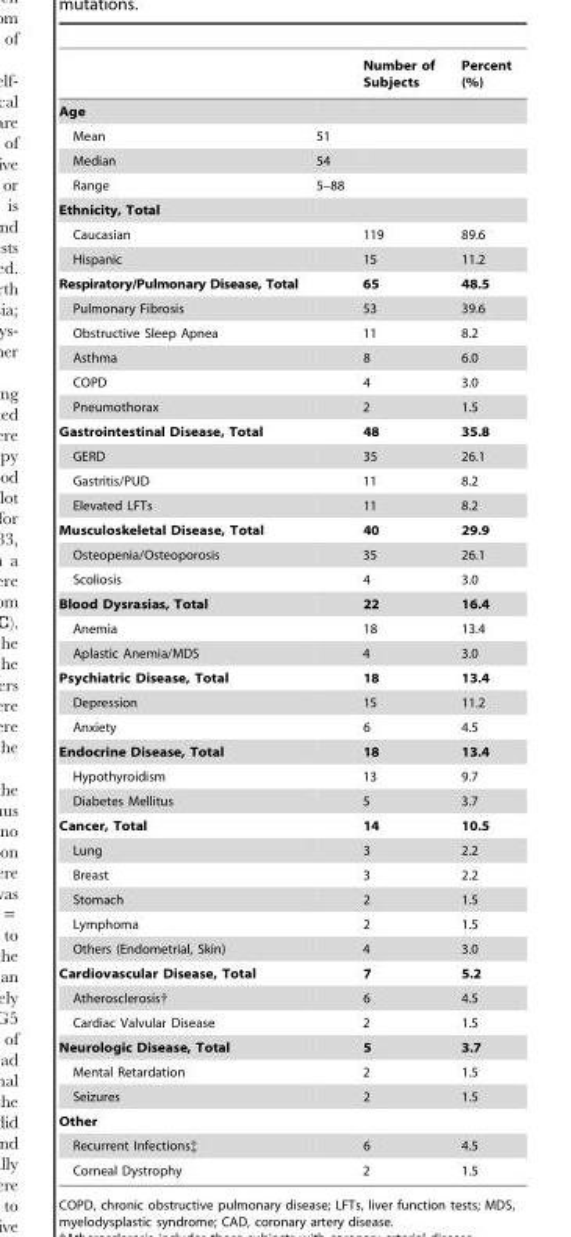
<table><thead><tr><td></td><td></td><td>Number of Subjects</td><td>Percent (%)</td></tr></thead><tbody><tr><td colspan="4">Age</td></tr><tr><td>Mean</td><td>51</td><td></td><td></td></tr><tr><td>Median</td><td>54</td><td></td><td></td></tr><tr><td>Range</td><td>5–88</td><td></td><td></td></tr><tr><td colspan="4">Ethnicity, Total</td></tr><tr><td>Caucasian</td><td></td><td>119</td><td>89.6</td></tr><tr><td>Hispanic</td><td></td><td>15</td><td>11.2</td></tr><tr><td>Respiratory/Pulmonary Disease, Total</td><td></td><td>65</td><td>48.5</td></tr><tr><td>Pulmonary Fibrosis</td><td></td><td>53</td><td>39.6</td></tr><tr><td>Obstructive Sleep Apnea</td><td></td><td>11</td><td>8.2</td></tr><tr><td>Asthma</td><td></td><td>8</td><td>6.0</td></tr><tr><td>COPD</td><td></td><td>4</td><td>3.0</td></tr><tr><td>Pneumothorax</td><td></td><td>2</td><td>1.5</td></tr><tr><td>Gastrointestinal Disease, Total</td><td></td><td>48</td><td>35.8</td></tr><tr><td>GERD</td><td></td><td>35</td><td>26.1</td></tr><tr><td>Gastritis/PUD</td><td></td><td>11</td><td>8.2</td></tr><tr><td>Elevated LFTs</td><td></td><td>11</td><td>8.2</td></tr><tr><td>Musculoskeletal Disease, Total</td><td></td><td>40</td><td>29.9</td></tr><tr><td>Osteopenia/Osteoporosis</td><td></td><td>35</td><td>26.1</td></tr><tr><td>Scoliosis</td><td></td><td>4</td><td>3.0</td></tr><tr><td>Blood Dysrasias, Total</td><td></td><td>22</td><td>16.4</td></tr><tr><td>Anemia</td><td></td><td>18</td><td>13.4</td></tr><tr><td>Aplastic Anemia/MDS</td><td></td><td>4</td><td>3.0</td></tr><tr><td>Psychiatric Disease, Total</td><td></td><td>18</td><td>13.4</td></tr><tr><td>Depression</td><td></td><td>15</td><td>11.2</td></tr><tr><td>Anxiety</td><td></td><td>6</td><td>4.5</td></tr><tr><td>Endocrine Disease, Total</td><td></td><td>18</td><td>13.4</td></tr><tr><td>Hypothyroidism</td><td></td><td>13</td><td>9.7</td></tr><tr><td>Diabetes Mellitus</td><td></td><td>5</td><td>3.7</td></tr><tr><td>Cancer, Total</td><td></td><td>14</td><td>10.5</td></tr><tr><td>Lung</td><td></td><td>3</td><td>2.2</td></tr><tr><td>Breast</td><td></td><td>3</td><td>2.2</td></tr><tr><td>Stomach</td><td></td><td>2</td><td>1.5</td></tr><tr><td>Lymphoma</td><td></td><td>2</td><td>1.5</td></tr><tr><td>Others (Endometrial, Skin)</td><td></td><td>4</td><td>3.0</td></tr><tr><td>Cardiovascular Disease, Total</td><td></td><td>7</td><td>5.2</td></tr><tr><td>Atherosclerosis†</td><td></td><td>6</td><td>4.5</td></tr><tr><td>Cardiac Valvular Disease</td><td></td><td>2</td><td>1.5</td></tr><tr><td>Neurologic Disease, Total</td><td></td><td>5</td><td>3.7</td></tr><tr><td>Mental Retardation</td><td></td><td>2</td><td>1.5</td></tr><tr><td>Seizures</td><td></td><td>2</td><td>1.5</td></tr><tr><td colspan="4">Other</td></tr><tr><td>Recurrent Infections‡</td><td></td><td>6</td><td>4.5</td></tr><tr><td>Corneal Dystrophy</td><td></td><td>2</td><td>1.5</td></tr></tbody></table>